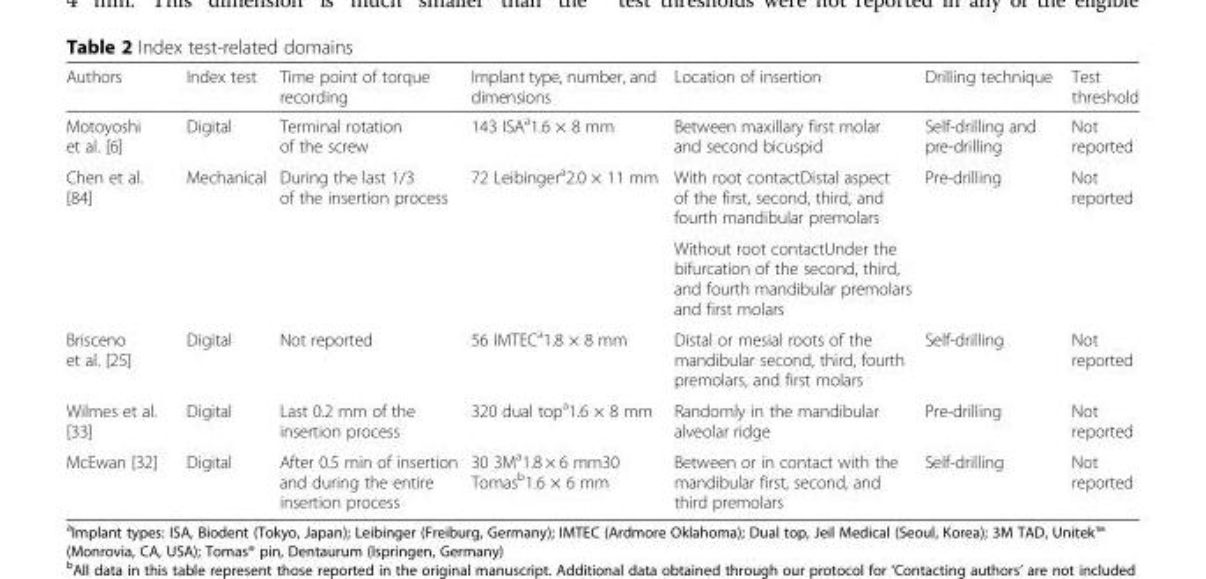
<table><thead><tr><td>Authors</td><td>Index test</td><td>Time point of torque recording</td><td>Implant type, number, and dimensions</td><td>Location of insertion</td><td>Drilling technique</td><td>Test threshold</td></tr></thead><tbody><tr><td>Motoyoshi et al. [6]</td><td>Digital</td><td>Terminal rotation of the screw</td><td>143 ISA<sup>a</sup>1.6 × 8 mm</td><td>Between maxillary first molar and second bicuspid</td><td>Self-drilling and pre-drilling</td><td>Not reported</td></tr><tr><td rowspan="2">Chen et al. [84]</td><td rowspan="2">Mechanical</td><td rowspan="2">During the last 1/3 of the insertion process</td><td rowspan="2">72 Leibinger<sup>a</sup>2.0 × 11 mm</td><td>With root contactDistal aspect of the first, second, third, and fourth mandibular premolars</td><td rowspan="2">Pre-drilling</td><td rowspan="2">Not reported</td></tr><tr><td>Without root contactUnder the bifurcation of the second, third, and fourth mandibular premolars and first molars</td></tr><tr><td>Brisceno et al. [25]</td><td>Digital</td><td>Not reported</td><td>56 IMTEC<sup>a</sup>1.8 × 8 mm</td><td>Distal or mesial roots of the mandibular second, third, fourth premolars, and first molars</td><td>Self-drilling</td><td>Not reported</td></tr><tr><td>Wilmes et al. [33]</td><td>Digital</td><td>Last 0.2 mm of the insertion process</td><td>320 dual top<sup>a</sup>1.6 × 8 mm</td><td>Randomly in the mandibular alveolar ridge</td><td>Pre-drilling</td><td>Not reported</td></tr><tr><td>McEwan [32]</td><td>Digital</td><td>After 0.5 min of insertion and during the entire insertion process</td><td>30 3M<sup>a</sup>1.8 × 6 mm30 Tomas<sup>b</sup>1.6 × 6 mm</td><td>Between or in contact with the mandibular first, second, and third premolars</td><td>Self-drilling</td><td>Not reported</td></tr></tbody></table>